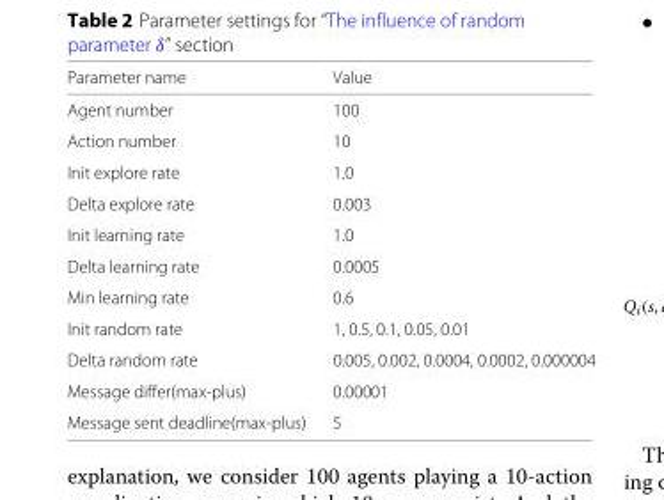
<table><thead><tr><td>Parameter name</td><td>Value</td></tr></thead><tbody><tr><td>Agent number</td><td>100</td></tr><tr><td>Action number</td><td>10</td></tr><tr><td>Init explore rate</td><td>1.0</td></tr><tr><td>Delta explore rate</td><td>0.003</td></tr><tr><td>Init learning rate</td><td>1.0</td></tr><tr><td>Delta learning rate</td><td>0.0005</td></tr><tr><td>Min learning rate</td><td>0.6</td></tr><tr><td>Init random rate</td><td>1, 0.5, 0.1, 0.05, 0.01</td></tr><tr><td>Delta random rate</td><td>0.005, 0.002, 0.0004, 0.0002, 0.000004</td></tr><tr><td>Message differ(max-plus)</td><td>0.00001</td></tr><tr><td>Message sent deadline(max-plus)</td><td>5</td></tr></tbody></table>